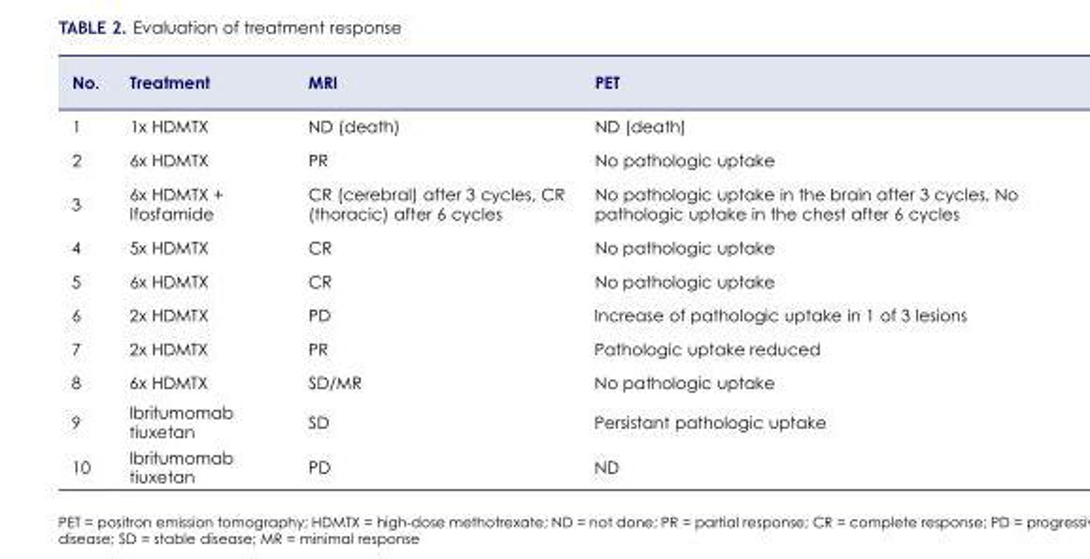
<table><thead><tr><td>No.</td><td>Treatment</td><td>MRI</td><td>PET</td></tr></thead><tbody><tr><td>1</td><td>1x HDMTX</td><td>ND (death)</td><td>ND (death)</td></tr><tr><td>2</td><td>6x HDMTX</td><td>PR</td><td>No pathologic uptake</td></tr><tr><td>3</td><td>6x HDMTX + Ifosfamide</td><td>CR (cerebral) after 3 cycles, CR (thoracic) after 6 cycles</td><td>No pathologic uptake in the brain after 3 cycles, No pathologic uptake in the chest after 6 cycles</td></tr><tr><td>4</td><td>5x HDMTX</td><td>CR</td><td>No pathologic uptake</td></tr><tr><td>5</td><td>6x HDMTX</td><td>CR</td><td>No pathologic uptake</td></tr><tr><td>6</td><td>2x HDMTX</td><td>PD</td><td>Increase of pathologic uptake in 1 of 3 lesions</td></tr><tr><td>7</td><td>2x HDMTX</td><td>PR</td><td>Pathologic uptake reduced</td></tr><tr><td>8</td><td>6x HDMTX</td><td>SD/MR</td><td>No pathologic uptake</td></tr><tr><td>9</td><td>Ibritumomab tiuxetan</td><td>SD</td><td>Persistant pathologic uptake</td></tr><tr><td>10</td><td>Ibritumomab tiuxetan</td><td>PD</td><td>ND</td></tr></tbody></table>